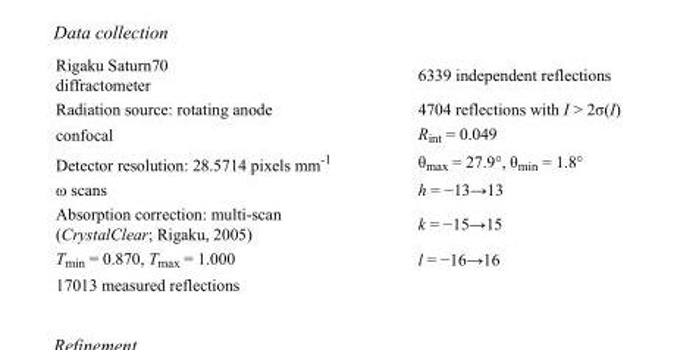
<table><tbody><tr><td>Rigaku Saturn70 diffractometer</td><td>6339 independent reflections</td></tr><tr><td>Radiation source: rotating anode</td><td>4704 reflections with I &gt; 2σ(I)</td></tr><tr><td>confocal</td><td>R<sub>int</sub> = 0.049</td></tr><tr><td>Detector resolution: 28.5714 pixels mm<sup>-1</sup></td><td>θ<sub>max</sub> = 27.9°, θ<sub>min</sub> = 1.8°</td></tr><tr><td>ω scans</td><td>h = −13→13</td></tr><tr><td>Absorption correction: multi-scan (CrystalClear; Rigaku, 2005)</td><td>k = −15→15</td></tr><tr><td>T<sub>min</sub> = 0.870, T<sub>max</sub> = 1.000</td><td>l = −16→16</td></tr><tr><td>17013 measured reflections</td><td></td></tr></tbody></table>